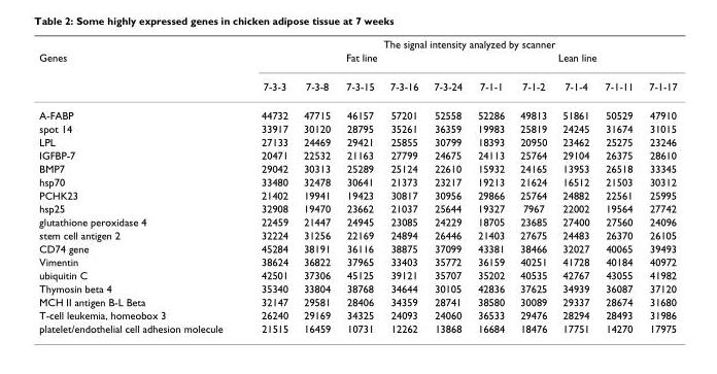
<table><thead><tr><td rowspan="3">Genes</td><td colspan="10">The signal intensity analyzed by scanner</td></tr><tr><td colspan="5">Fat line</td><td colspan="5">Lean line</td></tr><tr><td>7-3-3</td><td>7-3-8</td><td>7-3-15</td><td>7-3-16</td><td>7-3-24</td><td>7-1-1</td><td>7-1-2</td><td>7-1-4</td><td>7-1-11</td><td>7-1-17</td></tr></thead><tbody><tr><td>A-FABP</td><td>44732</td><td>47715</td><td>46157</td><td>57201</td><td>52558</td><td>52286</td><td>49813</td><td>51861</td><td>50529</td><td>47910</td></tr><tr><td>spot 14</td><td>33917</td><td>30120</td><td>28795</td><td>35261</td><td>36359</td><td>19983</td><td>25819</td><td>24245</td><td>31674</td><td>31015</td></tr><tr><td>LPL</td><td>27133</td><td>24469</td><td>29421</td><td>25855</td><td>30799</td><td>18393</td><td>20950</td><td>23462</td><td>25275</td><td>23246</td></tr><tr><td>IGFBP-7</td><td>20471</td><td>22532</td><td>21163</td><td>27799</td><td>24675</td><td>24113</td><td>25764</td><td>29104</td><td>26375</td><td>28610</td></tr><tr><td>BMP7</td><td>29042</td><td>30313</td><td>25289</td><td>25124</td><td>22610</td><td>15932</td><td>24165</td><td>13953</td><td>26518</td><td>33345</td></tr><tr><td>hsp70</td><td>33480</td><td>32478</td><td>30641</td><td>21373</td><td>23217</td><td>19213</td><td>21624</td><td>16512</td><td>21503</td><td>30312</td></tr><tr><td>PCHK23</td><td>21402</td><td>19941</td><td>19423</td><td>30817</td><td>30956</td><td>29866</td><td>25764</td><td>24882</td><td>22561</td><td>25995</td></tr><tr><td>hsp25</td><td>32908</td><td>19470</td><td>23662</td><td>21037</td><td>25644</td><td>19327</td><td>7967</td><td>22002</td><td>19564</td><td>27742</td></tr><tr><td>glutathione peroxidase 4</td><td>22459</td><td>21447</td><td>24945</td><td>23085</td><td>24229</td><td>18705</td><td>23685</td><td>27400</td><td>27560</td><td>24096</td></tr><tr><td>stem cell antigen 2</td><td>32224</td><td>31256</td><td>22169</td><td>24894</td><td>26446</td><td>21403</td><td>27675</td><td>24483</td><td>26370</td><td>26105</td></tr><tr><td>CD74 gene</td><td>45284</td><td>38191</td><td>36116</td><td>38875</td><td>37099</td><td>43381</td><td>38466</td><td>32027</td><td>40065</td><td>39493</td></tr><tr><td>Vimentin</td><td>38624</td><td>36822</td><td>37965</td><td>33403</td><td>35772</td><td>36159</td><td>40251</td><td>41728</td><td>40184</td><td>40972</td></tr><tr><td>ubiquitin C</td><td>42501</td><td>37306</td><td>45125</td><td>39121</td><td>35707</td><td>35202</td><td>40535</td><td>42767</td><td>43055</td><td>41982</td></tr><tr><td>Thymosin beta 4</td><td>35340</td><td>33804</td><td>38768</td><td>34644</td><td>30105</td><td>42836</td><td>37625</td><td>34939</td><td>36087</td><td>37120</td></tr><tr><td>MCH II antigen B-L Beta</td><td>32147</td><td>29581</td><td>28406</td><td>34359</td><td>28741</td><td>38580</td><td>30089</td><td>29337</td><td>28674</td><td>31680</td></tr><tr><td>T-cell leukemia, homeobox 3</td><td>26240</td><td>29169</td><td>34325</td><td>24093</td><td>24060</td><td>36533</td><td>29476</td><td>28294</td><td>28493</td><td>31986</td></tr><tr><td>platelet/endothelial cell adhesion molecule</td><td>21515</td><td>16459</td><td>10731</td><td>12262</td><td>13868</td><td>16684</td><td>18476</td><td>17751</td><td>14270</td><td>17975</td></tr></tbody></table>